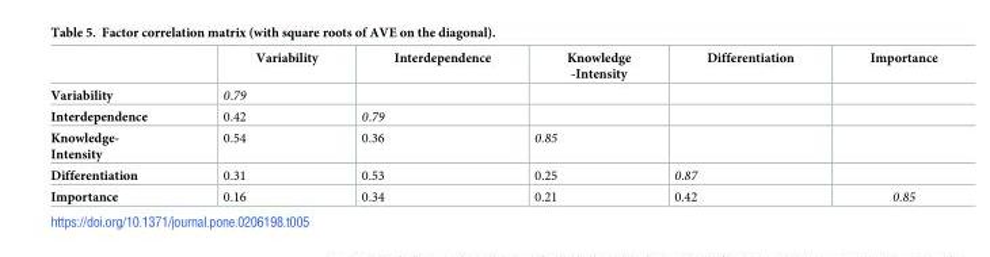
<table><thead><tr><td></td><td>Variability</td><td>Interdependence</td><td>Knowledge -Intensity</td><td>Differentiation</td><td>Importance</td></tr></thead><tbody><tr><td>Variability</td><td>0.79</td><td></td><td></td><td></td><td></td></tr><tr><td>Interdependence</td><td>0.42</td><td>0.79</td><td></td><td></td><td></td></tr><tr><td>Knowledge- Intensity</td><td>0.54</td><td>0.36</td><td>0.85</td><td></td><td></td></tr><tr><td>Differentiation</td><td>0.31</td><td>0.53</td><td>0.25</td><td>0.87</td><td></td></tr><tr><td>Importance</td><td>0.16</td><td>0.34</td><td>0.21</td><td>0.42</td><td>0.85</td></tr></tbody></table>